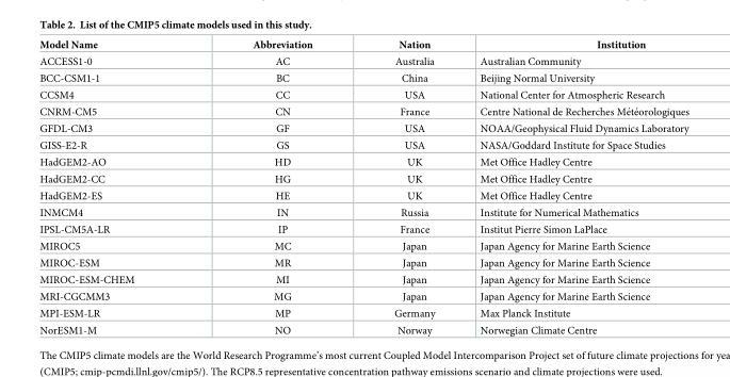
<table><thead><tr><td>Model Name</td><td>Abbreviation</td><td>Nation</td><td>Institution</td></tr></thead><tbody><tr><td>ACCESS1-0</td><td>AC</td><td>Australia</td><td>Australian Community</td></tr><tr><td>BCC-CSM1-1</td><td>BC</td><td>China</td><td>Beijing Normal University</td></tr><tr><td>CCSM4</td><td>CC</td><td>USA</td><td>National Center for Atmospheric Research</td></tr><tr><td>CNRM-CM5</td><td>CN</td><td>France</td><td>Centre National de Recherches Me´te´orologiques</td></tr><tr><td>GFDL-CM3</td><td>GF</td><td>USA</td><td>NOAA/Geophysical Fluid Dynamics Laboratory</td></tr><tr><td>GISS-E2-R</td><td>GS</td><td>USA</td><td>NASA/Goddard Institute for Space Studies</td></tr><tr><td>HadGEM2-AO</td><td>HD</td><td>UK</td><td>Met Office Hadley Centre</td></tr><tr><td>HadGEM2-CC</td><td>HG</td><td>UK</td><td>Met Office Hadley Centre</td></tr><tr><td>HadGEM2-ES</td><td>HE</td><td>UK</td><td>Met Office Hadley Centre</td></tr><tr><td>INMCM4</td><td>IN</td><td>Russia</td><td>Institute for Numerical Mathematics</td></tr><tr><td>IPSL-CM5A-LR</td><td>IP</td><td>France</td><td>Institut Pierre Simon LaPlace</td></tr><tr><td>MIROC5</td><td>MC</td><td>Japan</td><td>Japan Agency for Marine Earth Science</td></tr><tr><td>MIROC-ESM</td><td>MR</td><td>Japan</td><td>Japan Agency for Marine Earth Science</td></tr><tr><td>MIROC-ESM-CHEM</td><td>MI</td><td>Japan</td><td>Japan Agency for Marine Earth Science</td></tr><tr><td>MRI-CGCMM3</td><td>MG</td><td>Japan</td><td>Japan Agency for Marine Earth Science</td></tr><tr><td>MPI-ESM-LR</td><td>MP</td><td>Germany</td><td>Max Planck Institute</td></tr><tr><td>NorESM1-M</td><td>NO</td><td>Norway</td><td>Norwegian Climate Centre</td></tr></tbody></table>